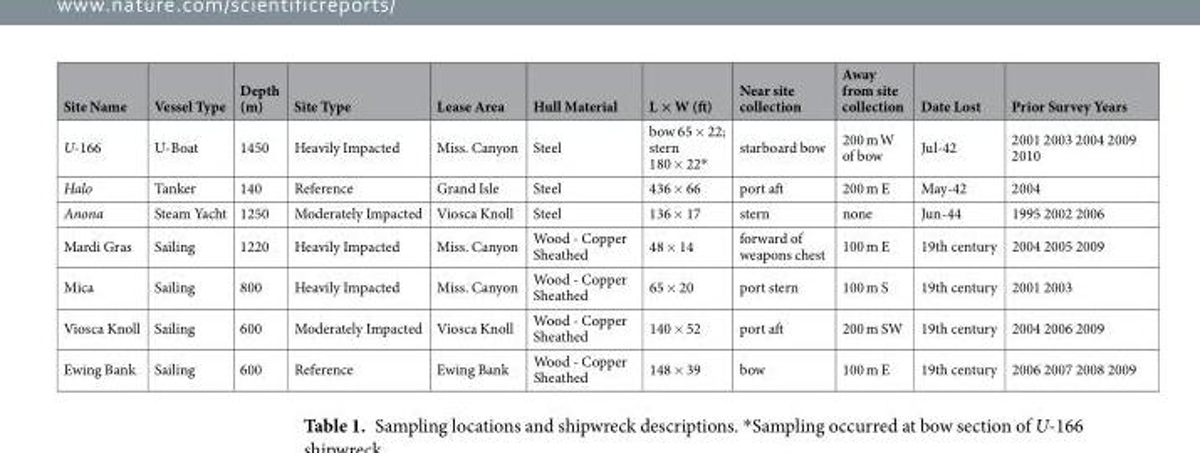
<table><thead><tr><td>Site Name</td><td>Vessel Type</td><td>Depth (m)</td><td>Site Type</td><td>Lease Area</td><td>Hull Material</td><td>L × W (ft)</td><td>Near site collection</td><td>Away from site collection</td><td>Date Lost</td><td>Prior Survey Years</td></tr></thead><tbody><tr><td>U-166</td><td>U-Boat</td><td>1450</td><td>Heavily Impacted</td><td>Miss. Canyon</td><td>Steel</td><td>bow 65 × 22; stern 180 × 22*</td><td>starboard bow</td><td>200 m W of bow</td><td>Jul-42</td><td>2001 2003 2004 2009 2010</td></tr><tr><td>Halo</td><td>Tanker</td><td>140</td><td>Reference</td><td>Grand Isle</td><td>Steel</td><td>436 × 66</td><td>port aft</td><td>200 m E</td><td>May-42</td><td>2004</td></tr><tr><td>Anona</td><td>Steam Yacht</td><td>1250</td><td>Moderately Impacted</td><td>Viosca Knoll</td><td>Steel</td><td>136 × 17</td><td>stern</td><td>none</td><td>Jun-44</td><td>1995 2002 2006</td></tr><tr><td>Mardi Gras</td><td>Sailing</td><td>1220</td><td>Heavily Impacted</td><td>Miss. Canyon</td><td>Wood - Copper Sheathed</td><td>48 × 14</td><td>forward of weapons chest</td><td>100 m E</td><td>19th century</td><td>2004 2005 2009</td></tr><tr><td>Mica</td><td>Sailing</td><td>800</td><td>Heavily Impacted</td><td>Miss. Canyon</td><td>Wood - Copper Sheathed</td><td>65 × 20</td><td>port stern</td><td>100 m S</td><td>19th century</td><td>2001 2003</td></tr><tr><td>Viosca Knoll</td><td>Sailing</td><td>600</td><td>Moderately Impacted</td><td>Viosca Knoll</td><td>Wood - Copper Sheathed</td><td>140 × 52</td><td>port aft</td><td>200 m SW</td><td>19th century</td><td>2004 2006 2009</td></tr><tr><td>Ewing Bank</td><td>Sailing</td><td>600</td><td>Reference</td><td>Ewing Bank</td><td>Wood - Copper Sheathed</td><td>148 × 39</td><td>bow</td><td>100 m E</td><td>19th century</td><td>2006 2007 2008 2009</td></tr></tbody></table>